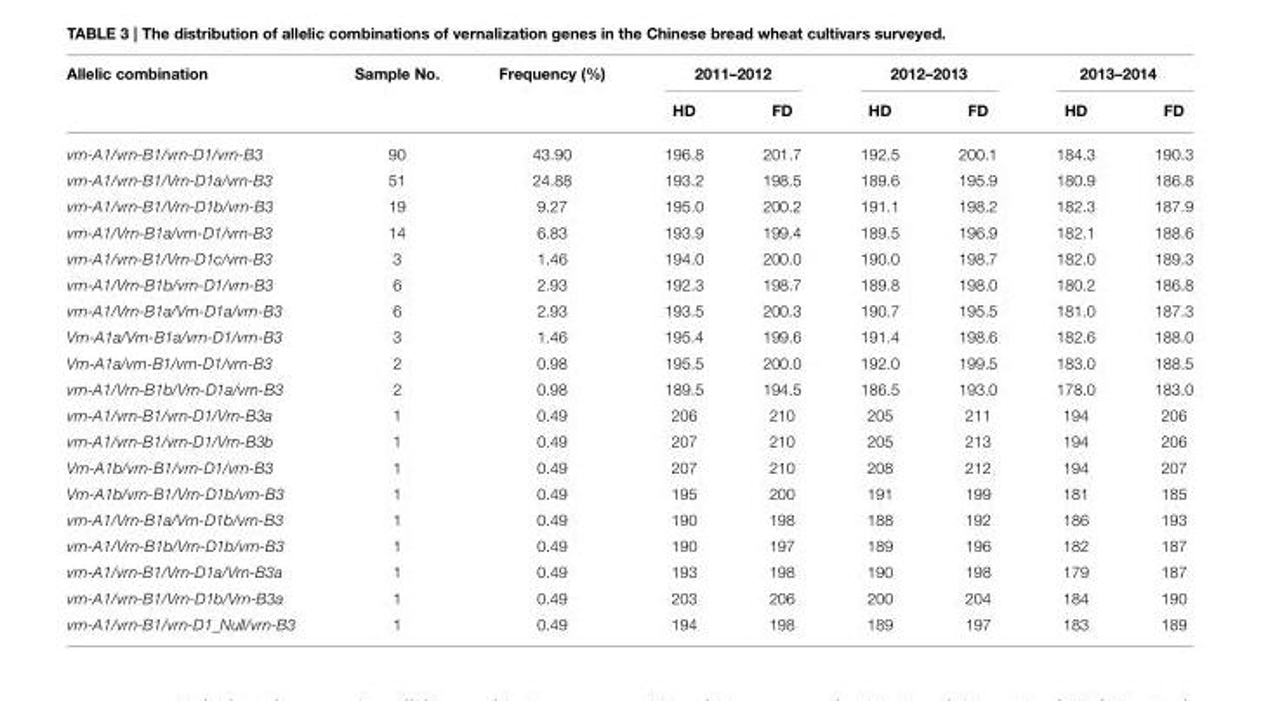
<table><thead><tr><td rowspan="2">Allelic combination</td><td rowspan="2">Sample No.</td><td rowspan="2">Frequency (%)</td><td colspan="2">2011–2012</td><td colspan="2">2012–2013</td><td colspan="2">2013–2014</td></tr><tr><td>HD</td><td>FD</td><td>HD</td><td>FD</td><td>HD</td><td>FD</td></tr></thead><tbody><tr><td>vrn-A1/vrn-B1/vrn-D1/vrn-B3</td><td>90</td><td>43.90</td><td>196.8</td><td>201.7</td><td>192.5</td><td>200.1</td><td>184.3</td><td>190.3</td></tr><tr><td>vrn-A1/vrn-B1/Vrn-D1a/vrn-B3</td><td>51</td><td>24.88</td><td>193.2</td><td>198.5</td><td>189.6</td><td>195.9</td><td>180.9</td><td>186.8</td></tr><tr><td>vrn-A1/vrn-B1/Vrn-D1b/vrn-B3</td><td>19</td><td>9.27</td><td>195.0</td><td>200.2</td><td>191.1</td><td>198.2</td><td>182.3</td><td>187.9</td></tr><tr><td>vrn-A1/Vrn-B1a/vrn-D1/vrn-B3</td><td>14</td><td>6.83</td><td>193.9</td><td>199.4</td><td>189.5</td><td>196.9</td><td>182.1</td><td>188.6</td></tr><tr><td>vrn-A1/vrn-B1/Vrn-D1c/vrn-B3</td><td>3</td><td>1.46</td><td>194.0</td><td>200.0</td><td>190.0</td><td>198.7</td><td>182.0</td><td>189.3</td></tr><tr><td>vrn-A1/Vrn-B1b/vrn-D1/vrn-B3</td><td>6</td><td>2.93</td><td>192.3</td><td>198.7</td><td>189.8</td><td>198.0</td><td>180.2</td><td>186.8</td></tr><tr><td>vrn-A1/Vrn-B1a/Vrn-D1a/vrn-B3</td><td>6</td><td>2.93</td><td>193.5</td><td>200.3</td><td>190.7</td><td>195.5</td><td>181.0</td><td>187.3</td></tr><tr><td>Vrn-A1a/Vrn-B1a/vrn-D1/vrn-B3</td><td>3</td><td>1.46</td><td>195.4</td><td>199.6</td><td>191.4</td><td>198.6</td><td>182.6</td><td>188.0</td></tr><tr><td>Vrn-A1a/vrn-B1/vrn-D1/vrn-B3</td><td>2</td><td>0.98</td><td>195.5</td><td>200.0</td><td>192.0</td><td>199.5</td><td>183.0</td><td>188.5</td></tr><tr><td>vrn-A1/Vrn-B1b/Vrn-D1a/vrn-B3</td><td>2</td><td>0.98</td><td>189.5</td><td>194.5</td><td>186.5</td><td>193.0</td><td>178.0</td><td>183.0</td></tr><tr><td>vrn-A1/vrn-B1/vrn-D1/Vrn-B3a</td><td>1</td><td>0.49</td><td>206</td><td>210</td><td>205</td><td>211</td><td>194</td><td>206</td></tr><tr><td>vrn-A1/vrn-B1/vrn-D1/Vrn-B3b</td><td>1</td><td>0.49</td><td>207</td><td>210</td><td>205</td><td>213</td><td>194</td><td>206</td></tr><tr><td>Vrn-A1b/vrn-B1/vrn-D1/vrn-B3</td><td>1</td><td>0.49</td><td>207</td><td>210</td><td>208</td><td>212</td><td>194</td><td>207</td></tr><tr><td>Vrn-A1b/vrn-B1/Vrn-D1b/vrn-B3</td><td>1</td><td>0.49</td><td>195</td><td>200</td><td>191</td><td>199</td><td>181</td><td>185</td></tr><tr><td>vrn-A1/Vrn-B1a/Vrn-D1b/vrn-B3</td><td>1</td><td>0.49</td><td>190</td><td>198</td><td>188</td><td>192</td><td>186</td><td>193</td></tr><tr><td>vrn-A1/Vrn-B1b/Vrn-D1b/vrn-B3</td><td>1</td><td>0.49</td><td>190</td><td>197</td><td>189</td><td>196</td><td>182</td><td>187</td></tr><tr><td>vrn-A1/vrn-B1/Vrn-D1a/Vrn-B3a</td><td>1</td><td>0.49</td><td>193</td><td>198</td><td>190</td><td>198</td><td>179</td><td>187</td></tr><tr><td>vrn-A1/vrn-B1/Vrn-D1b/Vrn-B3a</td><td>1</td><td>0.49</td><td>203</td><td>206</td><td>200</td><td>204</td><td>184</td><td>190</td></tr><tr><td>vrn-A1/vrn-B1/vrn-D1_Null/vrn-B3</td><td>1</td><td>0.49</td><td>194</td><td>198</td><td>189</td><td>197</td><td>183</td><td>189</td></tr></tbody></table>